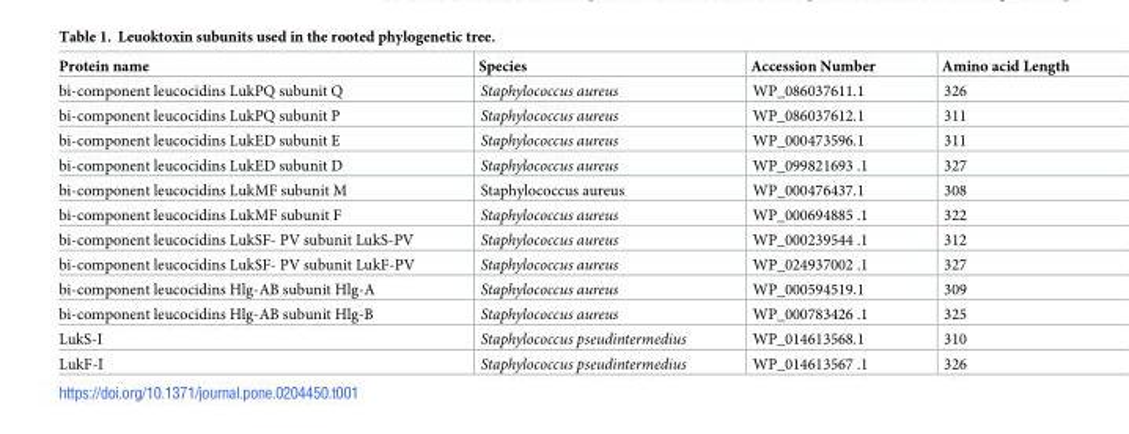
<table><thead><tr><td>Protein name</td><td>Species</td><td>Accession Number</td><td>Amino acid Length</td></tr></thead><tbody><tr><td>bi-component leucocidins LukPQ subunit Q</td><td>Staphylococcus aureus</td><td>WP_086037611.1</td><td>326</td></tr><tr><td>bi-component leucocidins LukPQ subunit P</td><td>Staphylococcus aureus</td><td>WP_086037612.1</td><td>311</td></tr><tr><td>bi-component leucocidins LukED subunit E</td><td>Staphylococcus aureus</td><td>WP_000473596.1</td><td>311</td></tr><tr><td>bi-component leucocidins LukED subunit D</td><td>Staphylococcus aureus</td><td>WP_099821693 .1</td><td>327</td></tr><tr><td>bi-component leucocidins LukMF subunit M</td><td>Staphylococcus aureus</td><td>WP_000476437.1</td><td>308</td></tr><tr><td>bi-component leucocidins LukMF subunit F</td><td>Staphylococcus aureus</td><td>WP_000694885 .1</td><td>322</td></tr><tr><td>bi-component leucocidins LukSF- PV subunit LukS-PV</td><td>Staphylococcus aureus</td><td>WP_000239544 .1</td><td>312</td></tr><tr><td>bi-component leucocidins LukSF- PV subunit LukF-PV</td><td>Staphylococcus aureus</td><td>WP_024937002 .1</td><td>327</td></tr><tr><td>bi-component leucocidins Hlg-AB subunit Hlg-A</td><td>Staphylococcus aureus</td><td>WP_000594519.1</td><td>309</td></tr><tr><td>bi-component leucocidins Hlg-AB subunit Hlg-B</td><td>Staphylococcus aureus</td><td>WP_000783426 .1</td><td>325</td></tr><tr><td>LukS-I</td><td>Staphylococcus pseudintermedius</td><td>WP_014613568.1</td><td>310</td></tr><tr><td>LukF-I</td><td>Staphylococcus pseudintermedius</td><td>WP_014613567 .1</td><td>326</td></tr></tbody></table>